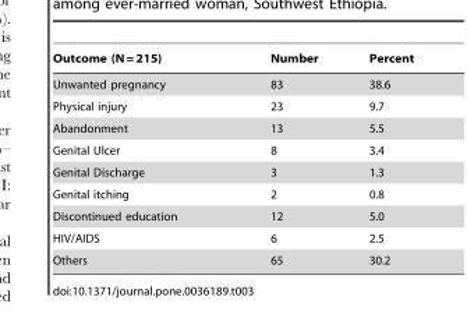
<table><thead><tr><td>Outcome (N = 215)</td><td>Number</td><td>Percent</td></tr></thead><tbody><tr><td>Unwanted pregnancy</td><td>83</td><td>38.6</td></tr><tr><td>Physical injury</td><td>23</td><td>9.7</td></tr><tr><td>Abandonment</td><td>13</td><td>5.5</td></tr><tr><td>Genital Ulcer</td><td>8</td><td>3.4</td></tr><tr><td>Genital Discharge</td><td>3</td><td>1.3</td></tr><tr><td>Genital itching</td><td>2</td><td>0.8</td></tr><tr><td>Discontinued education</td><td>12</td><td>5.0</td></tr><tr><td>HIV/AIDS</td><td>6</td><td>2.5</td></tr><tr><td>Others</td><td>65</td><td>30.2</td></tr></tbody></table>